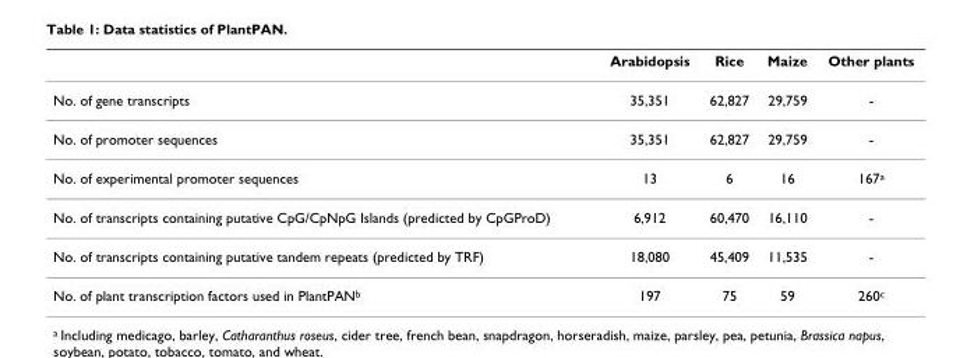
<table><thead><tr><td></td><td>Arabidopsis</td><td>Rice</td><td>Maize</td><td>Other plants</td></tr></thead><tbody><tr><td>No. of gene transcripts</td><td>35,351</td><td>62,827</td><td>29,759</td><td>-</td></tr><tr><td>No. of promoter sequences</td><td>35,351</td><td>62,827</td><td>29,759</td><td>-</td></tr><tr><td>No. of experimental promoter sequences</td><td>13</td><td>6</td><td>16</td><td>167<sup>a</sup></td></tr><tr><td>No. of transcripts containing putative CpG/CpNpG Islands (predicted by CpGProD)</td><td>6,912</td><td>60,470</td><td>16,110</td><td>-</td></tr><tr><td>No. of transcripts containing putative tandem repeats (predicted by TRF)</td><td>18,080</td><td>45,409</td><td>11,535</td><td>-</td></tr><tr><td>No. of plant transcription factors used in PlantPAN<sup>b</sup></td><td>197</td><td>75</td><td>59</td><td>260<sup>c</sup></td></tr></tbody></table>